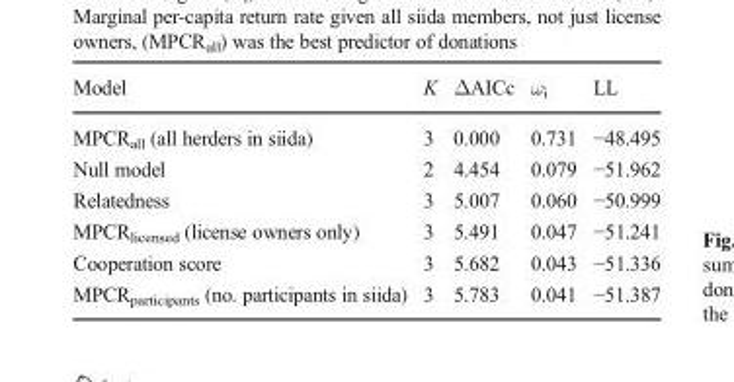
<table><thead><tr><td>Model</td><td>K</td><td>ΔAICc</td><td>ω<sub>i</sub></td><td>LL</td></tr></thead><tbody><tr><td>MPCR<sub>all</sub> (all herders in siida)</td><td>3</td><td>0.000</td><td>0.731</td><td>−48.495</td></tr><tr><td>Null model</td><td>2</td><td>4.454</td><td>0.079</td><td>−51.962</td></tr><tr><td>Relatedness</td><td>3</td><td>5.007</td><td>0.060</td><td>−50.999</td></tr><tr><td>MPCR<sub>licensed</sub> (license owners only)</td><td>3</td><td>5.491</td><td>0.047</td><td>−51.241</td></tr><tr><td>Cooperation score</td><td>3</td><td>5.682</td><td>0.043</td><td>−51.336</td></tr><tr><td>MPCR<sub>participants</sub> (no. participants in siida)</td><td>3</td><td>5.783</td><td>0.041</td><td>−51.387</td></tr></tbody></table>